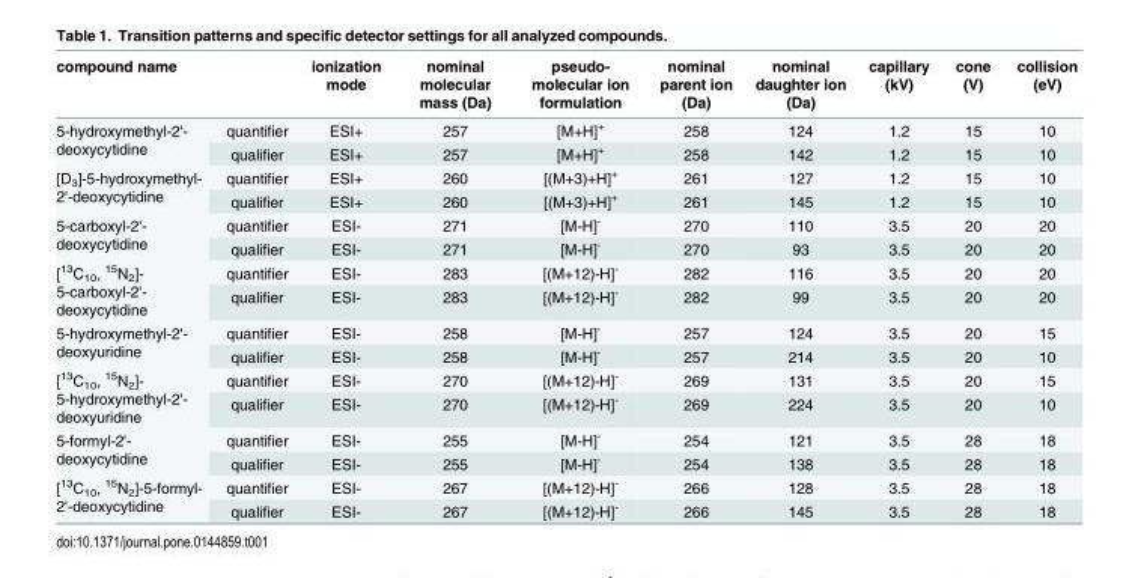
<table><thead><tr><td>compound name</td><td></td><td>ionization mode</td><td>nominal molecular mass (Da)</td><td>pseudo- molecular ion formulation</td><td>nominal parent ion (Da)</td><td>nominal daughter ion (Da)</td><td>capillary (kV)</td><td>cone (V)</td><td>collision (eV)</td></tr></thead><tbody><tr><td rowspan="2">5-hydroxymethyl-2&#x27;- deoxycytidine</td><td>quantifier</td><td>ESI+</td><td>257</td><td>[M+H]<sup>+</sup></td><td>258</td><td>124</td><td>1.2</td><td>15</td><td>10</td></tr><tr><td>qualifier</td><td>ESI+</td><td>257</td><td>[M+H]<sup>+</sup></td><td>258</td><td>142</td><td>1.2</td><td>15</td><td>10</td></tr><tr><td rowspan="2">[D<sub>3</sub>]-5-hydroxymethyl- 2&#x27;-deoxycytidine</td><td>quantifier</td><td>ESI+</td><td>260</td><td>[(M+3)+H]<sup>+</sup></td><td>261</td><td>127</td><td>1.2</td><td>15</td><td>10</td></tr><tr><td>qualifier</td><td>ESI+</td><td>260</td><td>[(M+3)+H]<sup>+</sup></td><td>261</td><td>145</td><td>1.2</td><td>15</td><td>10</td></tr><tr><td rowspan="2">5-carboxyl-2&#x27;- deoxycytidine</td><td>quantifier</td><td>ESI-</td><td>271</td><td>[M-H]<sup>-</sup></td><td>270</td><td>110</td><td>3.5</td><td>20</td><td>20</td></tr><tr><td>qualifier</td><td>ESI-</td><td>271</td><td>[M-H]<sup>-</sup></td><td>270</td><td>93</td><td>3.5</td><td>20</td><td>20</td></tr><tr><td rowspan="2">[<sup>13</sup>C<sub>10</sub>, <sup>15</sup>N<sub>2</sub>]- 5-carboxyl-2&#x27;- deoxycytidine</td><td>quantifier</td><td>ESI-</td><td>283</td><td>[(M+12)-H]<sup>-</sup></td><td>282</td><td>116</td><td>3.5</td><td>20</td><td>20</td></tr><tr><td>qualifier</td><td>ESI-</td><td>283</td><td>[(M+12)-H]<sup>-</sup></td><td>282</td><td>99</td><td>3.5</td><td>20</td><td>20</td></tr><tr><td rowspan="2">5-hydroxymethyl-2&#x27;- deoxyuridine</td><td>quantifier</td><td>ESI-</td><td>258</td><td>[M-H]<sup>-</sup></td><td>257</td><td>124</td><td>3.5</td><td>20</td><td>15</td></tr><tr><td>qualifier</td><td>ESI-</td><td>258</td><td>[M-H]<sup>-</sup></td><td>257</td><td>214</td><td>3.5</td><td>20</td><td>10</td></tr><tr><td rowspan="2">[<sup>13</sup>C<sub>10</sub>, <sup>15</sup>N<sub>2</sub>]- 5-hydroxymethyl-2&#x27;- deoxyuridine</td><td>quantifier</td><td>ESI-</td><td>270</td><td>[(M+12)-H]<sup>-</sup></td><td>269</td><td>131</td><td>3.5</td><td>20</td><td>15</td></tr><tr><td>qualifier</td><td>ESI-</td><td>270</td><td>[(M+12)-H]<sup>-</sup></td><td>269</td><td>224</td><td>3.5</td><td>20</td><td>10</td></tr><tr><td rowspan="2">5-formyl-2&#x27;- deoxycytidine</td><td>quantifier</td><td>ESI-</td><td>255</td><td>[M-H]<sup>-</sup></td><td>254</td><td>121</td><td>3.5</td><td>28</td><td>18</td></tr><tr><td>qualifier</td><td>ESI-</td><td>255</td><td>[M-H]<sup>-</sup></td><td>254</td><td>138</td><td>3.5</td><td>28</td><td>18</td></tr><tr><td rowspan="2">[<sup>13</sup>C<sub>10</sub>, <sup>15</sup>N<sub>2</sub>]-5-formyl- 2&#x27;-deoxycytidine</td><td>quantifier</td><td>ESI-</td><td>267</td><td>[(M+12)-H]<sup>-</sup></td><td>266</td><td>128</td><td>3.5</td><td>28</td><td>18</td></tr><tr><td>qualifier</td><td>ESI-</td><td>267</td><td>[(M+12)-H]<sup>-</sup></td><td>266</td><td>145</td><td>3.5</td><td>28</td><td>18</td></tr></tbody></table>